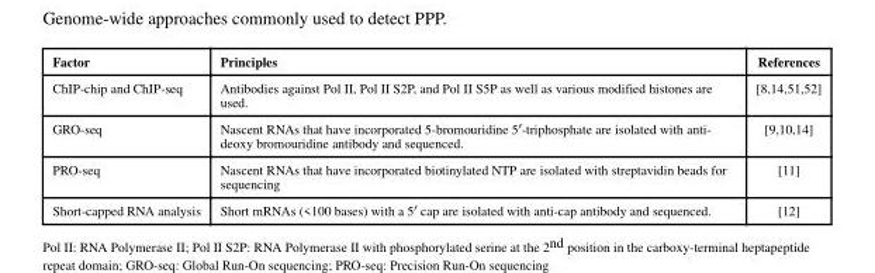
<table><thead><tr><td>Factor</td><td>Principles</td><td>References</td></tr></thead><tbody><tr><td>ChIP-chip and ChIP-seq</td><td>Antibodies against Pol II, Pol II S2P, and Pol II S5P as well as various modified histones are used.</td><td>[8,14,51,52]</td></tr><tr><td>GRO-seq</td><td>Nascent RNAs that have incorporated 5-bromouridine 5′-triphosphate are isolated with anti- deoxy bromouridine antibody and sequenced.</td><td>[9,10,14]</td></tr><tr><td>PRO-seq</td><td>Nascent RNAs that have incorporated biotinylated NTP are isolated with streptavidin beads for sequencing</td><td>[11]</td></tr><tr><td>Short-capped RNA analysis</td><td>Short mRNAs (&lt;100 bases) with a 5′ cap are isolated with anti-cap antibody and sequenced.</td><td>[12]</td></tr></tbody></table>